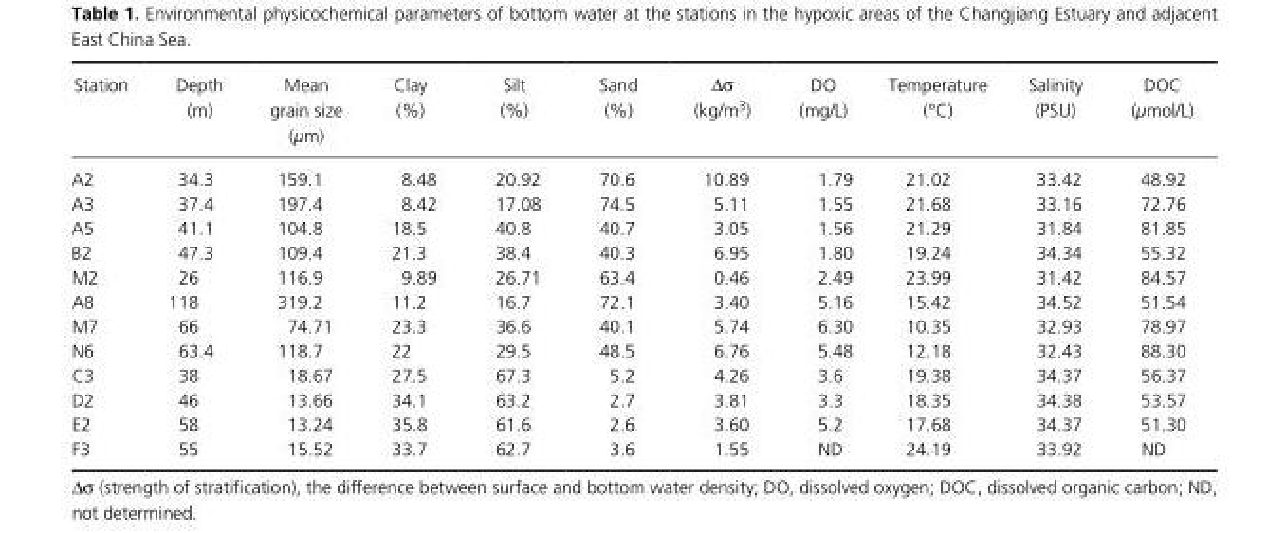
<table><thead><tr><td>Station</td><td>Depth (m)</td><td>Mean grain size (μm)</td><td>Clay (%)</td><td>Silt (%)</td><td>Sand (%)</td><td>Δσ (kg/m<sup>3</sup>)</td><td>DO (mg/L)</td><td>Temperature (°C)</td><td>Salinity (PSU)</td><td>DOC (μmol/L)</td></tr></thead><tbody><tr><td>A2</td><td>34.3</td><td>159.1</td><td>8.48</td><td>20.92</td><td>70.6</td><td>10.89</td><td>1.79</td><td>21.02</td><td>33.42</td><td>48.92</td></tr><tr><td>A3</td><td>37.4</td><td>197.4</td><td>8.42</td><td>17.08</td><td>74.5</td><td>5.11</td><td>1.55</td><td>21.68</td><td>33.16</td><td>72.76</td></tr><tr><td>A5</td><td>41.1</td><td>104.8</td><td>18.5</td><td>40.8</td><td>40.7</td><td>3.05</td><td>1.56</td><td>21.29</td><td>31.84</td><td>81.85</td></tr><tr><td>B2</td><td>47.3</td><td>109.4</td><td>21.3</td><td>38.4</td><td>40.3</td><td>6.95</td><td>1.80</td><td>19.24</td><td>34.34</td><td>55.32</td></tr><tr><td>M2</td><td>26</td><td>116.9</td><td>9.89</td><td>26.71</td><td>63.4</td><td>0.46</td><td>2.49</td><td>23.99</td><td>31.42</td><td>84.57</td></tr><tr><td>A8</td><td>118</td><td>319.2</td><td>11.2</td><td>16.7</td><td>72.1</td><td>3.40</td><td>5.16</td><td>15.42</td><td>34.52</td><td>51.54</td></tr><tr><td>M7</td><td>66</td><td>74.71</td><td>23.3</td><td>36.6</td><td>40.1</td><td>5.74</td><td>6.30</td><td>10.35</td><td>32.93</td><td>78.97</td></tr><tr><td>N6</td><td>63.4</td><td>118.7</td><td>22</td><td>29.5</td><td>48.5</td><td>6.76</td><td>5.48</td><td>12.18</td><td>32.43</td><td>88.30</td></tr><tr><td>C3</td><td>38</td><td>18.67</td><td>27.5</td><td>67.3</td><td>5.2</td><td>4.26</td><td>3.6</td><td>19.38</td><td>34.37</td><td>56.37</td></tr><tr><td>D2</td><td>46</td><td>13.66</td><td>34.1</td><td>63.2</td><td>2.7</td><td>3.81</td><td>3.3</td><td>18.35</td><td>34.38</td><td>53.57</td></tr><tr><td>E2</td><td>58</td><td>13.24</td><td>35.8</td><td>61.6</td><td>2.6</td><td>3.60</td><td>5.2</td><td>17.68</td><td>34.37</td><td>51.30</td></tr><tr><td>F3</td><td>55</td><td>15.52</td><td>33.7</td><td>62.7</td><td>3.6</td><td>1.55</td><td>ND</td><td>24.19</td><td>33.92</td><td>ND</td></tr></tbody></table>